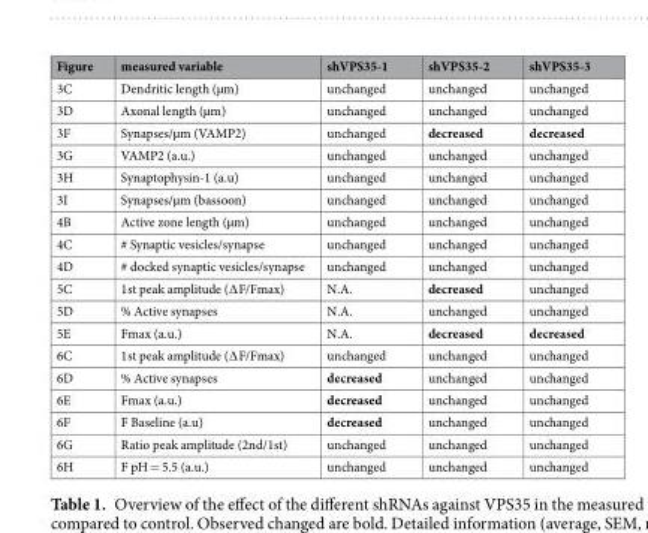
<table><thead><tr><td>Figure</td><td>measured variable</td><td>shVPS35-1</td><td>shVPS35-2</td><td>shVPS35-3</td></tr></thead><tbody><tr><td>3C</td><td>Dendritic length (µm)</td><td>unchanged</td><td>unchanged</td><td>unchanged</td></tr><tr><td>3D</td><td>Axonal length (µm)</td><td>unchanged</td><td>unchanged</td><td>unchanged</td></tr><tr><td>3F</td><td>Synapses/µm (VAMP2)</td><td>unchanged</td><td>decreased</td><td>decreased</td></tr><tr><td>3G</td><td>VAMP2 (a.u.)</td><td>unchanged</td><td>unchanged</td><td>unchanged</td></tr><tr><td>3H</td><td>Synaptophysin-1 (a.u)</td><td>unchanged</td><td>unchanged</td><td>unchanged</td></tr><tr><td>3I</td><td>Synapses/µm (bassoon)</td><td>unchanged</td><td>unchanged</td><td>unchanged</td></tr><tr><td>4B</td><td>Active zone length (µm)</td><td>unchanged</td><td>unchanged</td><td>unchanged</td></tr><tr><td>4C</td><td># Synaptic vesicles/synapse</td><td>unchanged</td><td>unchanged</td><td>unchanged</td></tr><tr><td>4D</td><td># docked synaptic vesicles/synapse</td><td>unchanged</td><td>unchanged</td><td>unchanged</td></tr><tr><td>5C</td><td>1st peak amplitude (∆F/Fmax)</td><td>N.A.</td><td>decreased</td><td>unchanged</td></tr><tr><td>5D</td><td>% Active synapses</td><td>N.A.</td><td>unchanged</td><td>unchanged</td></tr><tr><td>5E</td><td>Fmax (a.u.)</td><td>N.A.</td><td>decreased</td><td>decreased</td></tr><tr><td>6C</td><td>1st peak amplitude (∆F/Fmax)</td><td>unchanged</td><td>unchanged</td><td>unchanged</td></tr><tr><td>6D</td><td>% Active synapses</td><td>decreased</td><td>unchanged</td><td>unchanged</td></tr><tr><td>6E</td><td>Fmax (a.u.)</td><td>decreased</td><td>unchanged</td><td>unchanged</td></tr><tr><td>6F</td><td>F Baseline (a.u)</td><td>decreased</td><td>unchanged</td><td>unchanged</td></tr><tr><td>6G</td><td>Ratio peak amplitude (2nd/1st)</td><td>unchanged</td><td>unchanged</td><td>unchanged</td></tr><tr><td>6H</td><td>F pH = 5.5 (a.u.)</td><td>unchanged</td><td>unchanged</td><td>unchanged</td></tr></tbody></table>